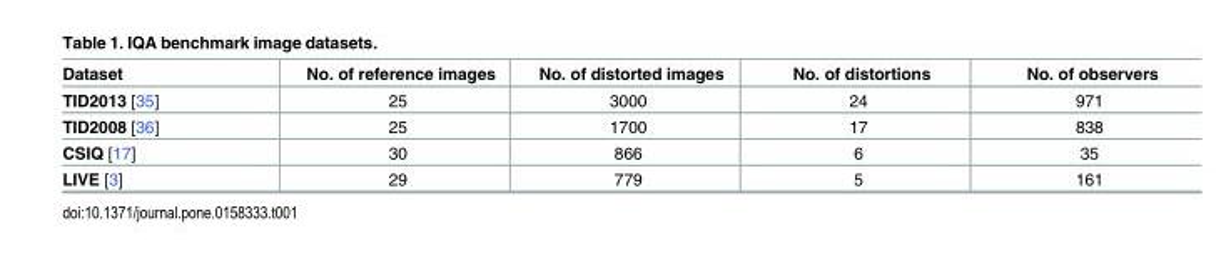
<table><thead><tr><td>Dataset</td><td>No. of reference images</td><td>No. of distorted images</td><td>No. of distortions</td><td>No. of observers</td></tr></thead><tbody><tr><td>TID2013 [35]</td><td>25</td><td>3000</td><td>24</td><td>971</td></tr><tr><td>TID2008 [36]</td><td>25</td><td>1700</td><td>17</td><td>838</td></tr><tr><td>CSIQ [17]</td><td>30</td><td>866</td><td>6</td><td>35</td></tr><tr><td>LIVE [3]</td><td>29</td><td>779</td><td>5</td><td>161</td></tr></tbody></table>